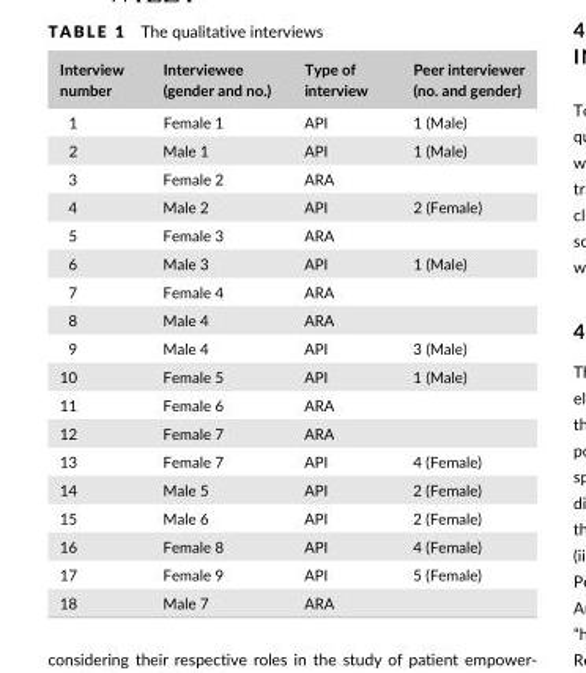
<table><thead><tr><td>Interview number</td><td>Interviewee (gender and no.)</td><td>Type of interview</td><td>Peer interviewer (no. and gender)</td></tr></thead><tbody><tr><td>1</td><td>Female 1</td><td>API</td><td>1 (Male)</td></tr><tr><td>2</td><td>Male 1</td><td>API</td><td>1 (Male)</td></tr><tr><td>3</td><td>Female 2</td><td>ARA</td><td></td></tr><tr><td>4</td><td>Male 2</td><td>API</td><td>2 (Female)</td></tr><tr><td>5</td><td>Female 3</td><td>ARA</td><td></td></tr><tr><td>6</td><td>Male 3</td><td>API</td><td>1 (Male)</td></tr><tr><td>7</td><td>Female 4</td><td>ARA</td><td></td></tr><tr><td>8</td><td>Male 4</td><td>ARA</td><td></td></tr><tr><td>9</td><td>Male 4</td><td>API</td><td>3 (Male)</td></tr><tr><td>10</td><td>Female 5</td><td>API</td><td>1 (Male)</td></tr><tr><td>11</td><td>Female 6</td><td>ARA</td><td></td></tr><tr><td>12</td><td>Female 7</td><td>ARA</td><td></td></tr><tr><td>13</td><td>Female 7</td><td>API</td><td>4 (Female)</td></tr><tr><td>14</td><td>Male 5</td><td>API</td><td>2 (Female)</td></tr><tr><td>15</td><td>Male 6</td><td>API</td><td>2 (Female)</td></tr><tr><td>16</td><td>Female 8</td><td>API</td><td>4 (Female)</td></tr><tr><td>17</td><td>Female 9</td><td>API</td><td>5 (Female)</td></tr><tr><td>18</td><td>Male 7</td><td>ARA</td><td></td></tr></tbody></table>